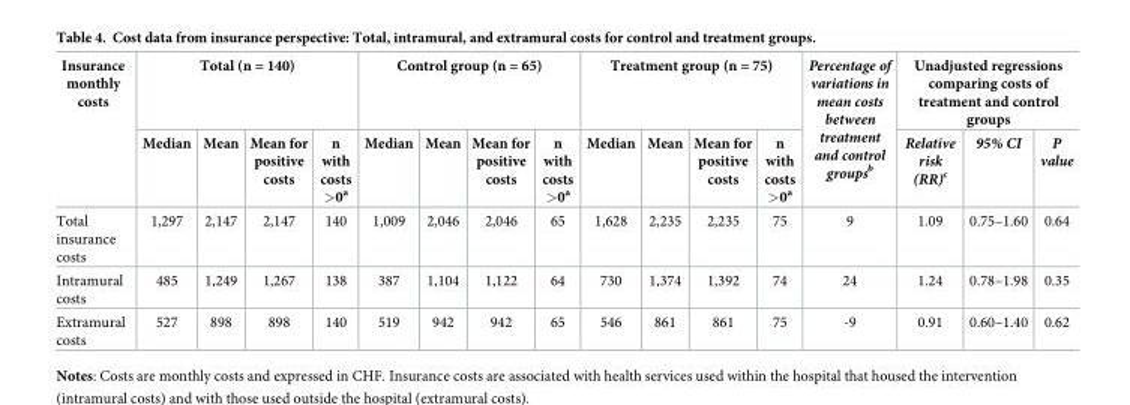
<table><thead><tr><td rowspan="2">Insurance monthly costs</td><td colspan="4">Total (n = 140)</td><td colspan="4">Control group (n = 65)</td><td colspan="4">Treatment group (n = 75)</td><td rowspan="2">Percentage of variations in mean costs between treatment and control groups<sup>b</sup></td><td colspan="3">Unadjusted regressions comparing costs of treatment and control groups</td></tr><tr><td>Median</td><td>Mean</td><td>Mean for positive costs</td><td>n with costs &gt;0<sup>a</sup></td><td>Median</td><td>Mean</td><td>Mean for positive costs</td><td>n with costs &gt;0<sup>a</sup></td><td>Median</td><td>Mean</td><td>Mean for positive costs</td><td>n with costs &gt;0<sup>a</sup></td><td>Relative risk (RR)<sup>c</sup></td><td>95% CI</td><td>P value</td></tr></thead><tbody><tr><td>Total insurance costs</td><td>1,297</td><td>2,147</td><td>2,147</td><td>140</td><td>1,009</td><td>2,046</td><td>2,046</td><td>65</td><td>1,628</td><td>2,235</td><td>2,235</td><td>75</td><td>9</td><td>1.09</td><td>0.75–1.60</td><td>0.64</td></tr><tr><td>Intramural costs</td><td>485</td><td>1,249</td><td>1,267</td><td>138</td><td>387</td><td>1,104</td><td>1,122</td><td>64</td><td>730</td><td>1,374</td><td>1,392</td><td>74</td><td>24</td><td>1.24</td><td>0.78–1.98</td><td>0.35</td></tr><tr><td>Extramural costs</td><td>527</td><td>898</td><td>898</td><td>140</td><td>519</td><td>942</td><td>942</td><td>65</td><td>546</td><td>861</td><td>861</td><td>75</td><td>-9</td><td>0.91</td><td>0.60–1.40</td><td>0.62</td></tr></tbody></table>